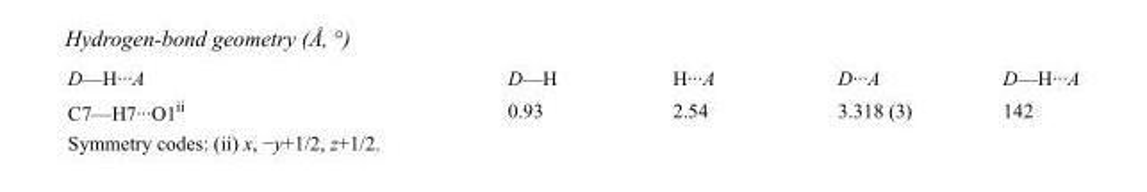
<table><tbody><tr><td>D—H···A</td><td>D—H</td><td>H···A</td><td>D···A</td><td>D—H···A</td></tr><tr><td>C7—H7···O1<sup>ii</sup></td><td>0.93</td><td>2.54</td><td>3.318 (3)</td><td>142</td></tr></tbody></table>